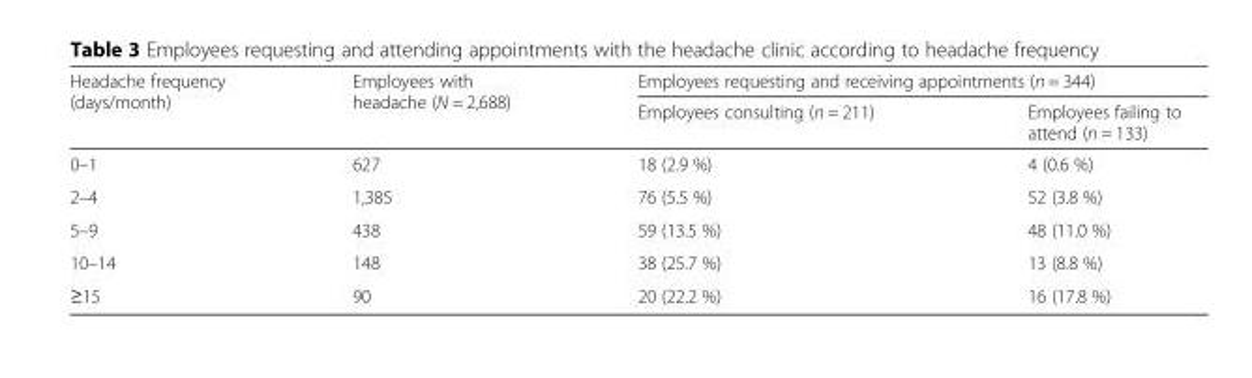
<table><thead><tr><td rowspan="2">Headache frequency (days/month)</td><td rowspan="2">Employees with headache (N = 2,688)</td><td colspan="2">Employees requesting and receiving appointments (n = 344)</td></tr><tr><td>Employees consulting (n = 211)</td><td>Employees failing to attend (n = 133)</td></tr></thead><tbody><tr><td>0–1</td><td>627</td><td>18 (2.9 %)</td><td>4 (0.6 %)</td></tr><tr><td>2–4</td><td>1,385</td><td>76 (5.5 %)</td><td>52 (3.8 %)</td></tr><tr><td>5–9</td><td>438</td><td>59 (13.5 %)</td><td>48 (11.0 %)</td></tr><tr><td>10–14</td><td>148</td><td>38 (25.7 %)</td><td>13 (8.8 %)</td></tr><tr><td>≥15</td><td>90</td><td>20 (22.2 %)</td><td>16 (17.8 %)</td></tr></tbody></table>